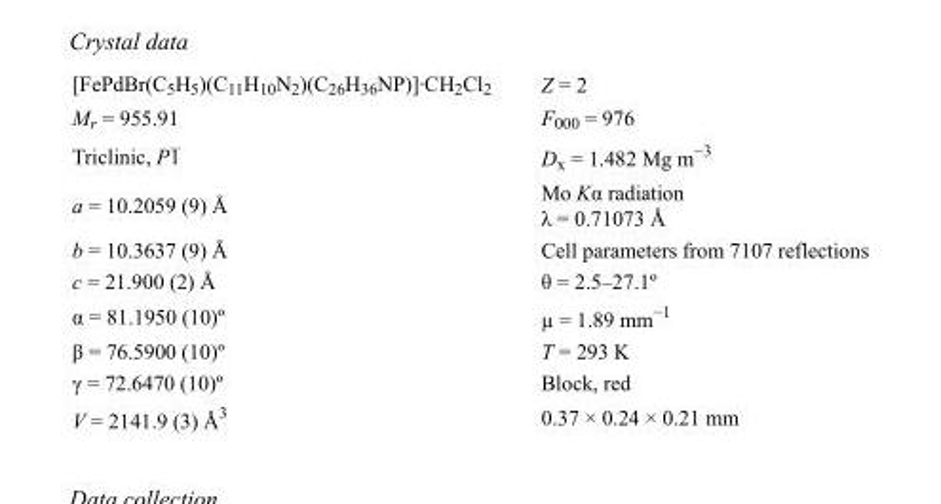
<table><tbody><tr><td>[FePdBr(C<sub>5</sub>H<sub>5</sub>)(C<sub>11</sub>H<sub>10</sub>N<sub>2</sub>)(C<sub>26</sub>H<sub>36</sub>NP)]·CH<sub>2</sub>Cl<sub>2</sub></td><td>Z = 2</td></tr><tr><td>M<sub>r</sub> = 955.91</td><td>F000 = 976</td></tr><tr><td>Triclinic, P1</td><td>D<sub>x</sub> = 1.482 Mg m<sup>−3</sup></td></tr><tr><td>a = 10.2059 (9) Å</td><td>Mo Kα radiation λ = 0.71073 Å</td></tr><tr><td>b = 10.3637 (9) Å</td><td>Cell parameters from 7107 reflections</td></tr><tr><td>c = 21.900 (2) Å</td><td>θ = 2.5–27.1º</td></tr><tr><td>α = 81.1950 (10)º</td><td>µ = 1.89 mm<sup>−1</sup></td></tr><tr><td>β = 76.5900 (10)º</td><td>T = 293 K</td></tr><tr><td>γ = 72.6470 (10)º</td><td>Block, red</td></tr><tr><td>V = 2141.9 (3) Å<sup>3</sup></td><td>0.37 × 0.24 × 0.21 mm</td></tr></tbody></table>